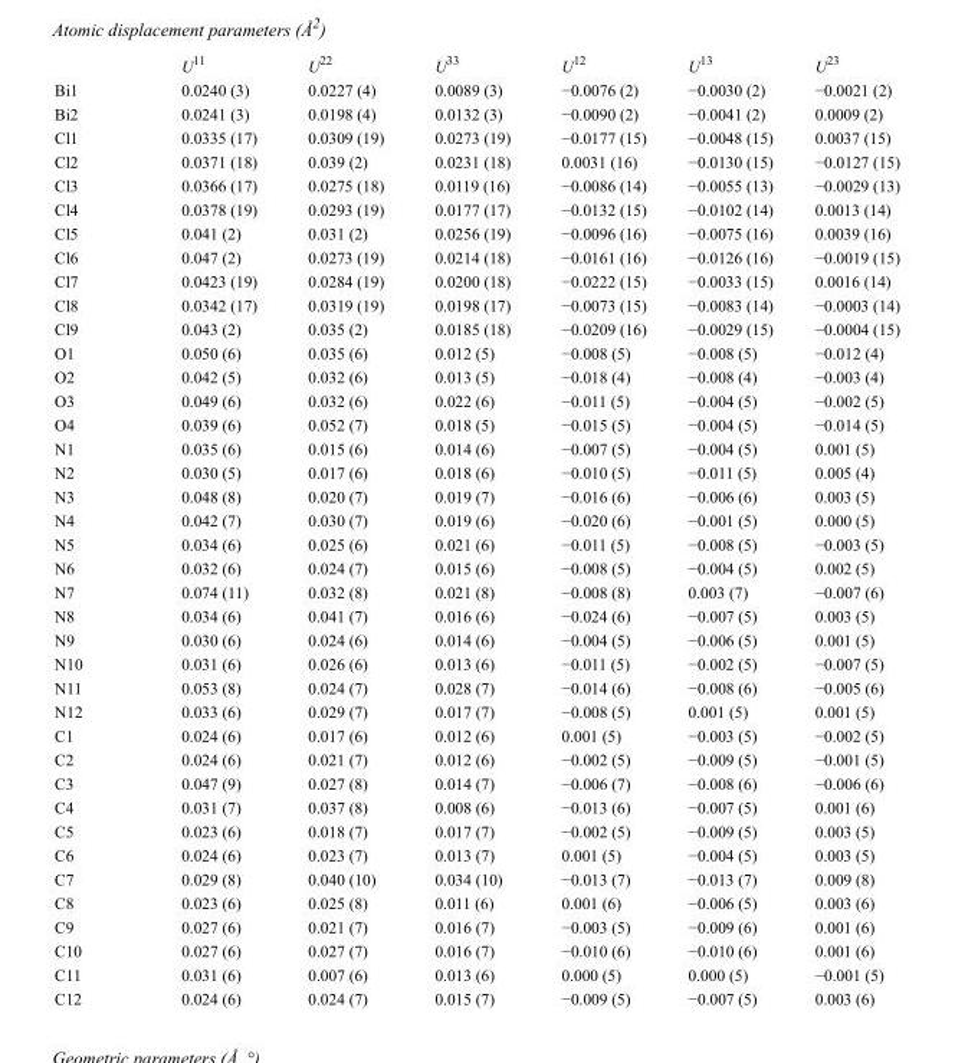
<table><thead><tr><td></td><td>U<sup>11</sup></td><td>U<sup>22</sup></td><td>U<sup>33</sup></td><td>U<sup>12</sup></td><td>U<sup>13</sup></td><td>U<sup>23</sup></td></tr></thead><tbody><tr><td>Bi1</td><td>0.0240 (3)</td><td>0.0227 (4)</td><td>0.0089 (3)</td><td>−0.0076 (2)</td><td>−0.0030 (2)</td><td>−0.0021 (2)</td></tr><tr><td>Bi2</td><td>0.0241 (3)</td><td>0.0198 (4)</td><td>0.0132 (3)</td><td>−0.0090 (2)</td><td>−0.0041 (2)</td><td>0.0009 (2)</td></tr><tr><td>Cl1</td><td>0.0335 (17)</td><td>0.0309 (19)</td><td>0.0273 (19)</td><td>−0.0177 (15)</td><td>−0.0048 (15)</td><td>0.0037 (15)</td></tr><tr><td>Cl2</td><td>0.0371 (18)</td><td>0.039 (2)</td><td>0.0231 (18)</td><td>0.0031 (16)</td><td>−0.0130 (15)</td><td>−0.0127 (15)</td></tr><tr><td>Cl3</td><td>0.0366 (17)</td><td>0.0275 (18)</td><td>0.0119 (16)</td><td>−0.0086 (14)</td><td>−0.0055 (13)</td><td>−0.0029 (13)</td></tr><tr><td>Cl4</td><td>0.0378 (19)</td><td>0.0293 (19)</td><td>0.0177 (17)</td><td>−0.0132 (15)</td><td>−0.0102 (14)</td><td>0.0013 (14)</td></tr><tr><td>Cl5</td><td>0.041 (2)</td><td>0.031 (2)</td><td>0.0256 (19)</td><td>−0.0096 (16)</td><td>−0.0075 (16)</td><td>0.0039 (16)</td></tr><tr><td>Cl6</td><td>0.047 (2)</td><td>0.0273 (19)</td><td>0.0214 (18)</td><td>−0.0161 (16)</td><td>−0.0126 (16)</td><td>−0.0019 (15)</td></tr><tr><td>Cl7</td><td>0.0423 (19)</td><td>0.0284 (19)</td><td>0.0200 (18)</td><td>−0.0222 (15)</td><td>−0.0033 (15)</td><td>0.0016 (14)</td></tr><tr><td>Cl8</td><td>0.0342 (17)</td><td>0.0319 (19)</td><td>0.0198 (17)</td><td>−0.0073 (15)</td><td>−0.0083 (14)</td><td>−0.0003 (14)</td></tr><tr><td>Cl9</td><td>0.043 (2)</td><td>0.035 (2)</td><td>0.0185 (18)</td><td>−0.0209 (16)</td><td>−0.0029 (15)</td><td>−0.0004 (15)</td></tr><tr><td>O1</td><td>0.050 (6)</td><td>0.035 (6)</td><td>0.012 (5)</td><td>−0.008 (5)</td><td>−0.008 (5)</td><td>−0.012 (4)</td></tr><tr><td>O2</td><td>0.042 (5)</td><td>0.032 (6)</td><td>0.013 (5)</td><td>−0.018 (4)</td><td>−0.008 (4)</td><td>−0.003 (4)</td></tr><tr><td>O3</td><td>0.049 (6)</td><td>0.032 (6)</td><td>0.022 (6)</td><td>−0.011 (5)</td><td>−0.004 (5)</td><td>−0.002 (5)</td></tr><tr><td>O4</td><td>0.039 (6)</td><td>0.052 (7)</td><td>0.018 (5)</td><td>−0.015 (5)</td><td>−0.004 (5)</td><td>−0.014 (5)</td></tr><tr><td>N1</td><td>0.035 (6)</td><td>0.015 (6)</td><td>0.014 (6)</td><td>−0.007 (5)</td><td>−0.004 (5)</td><td>0.001 (5)</td></tr><tr><td>N2</td><td>0.030 (5)</td><td>0.017 (6)</td><td>0.018 (6)</td><td>−0.010 (5)</td><td>−0.011 (5)</td><td>0.005 (4)</td></tr><tr><td>N3</td><td>0.048 (8)</td><td>0.020 (7)</td><td>0.019 (7)</td><td>−0.016 (6)</td><td>−0.006 (6)</td><td>0.003 (5)</td></tr><tr><td>N4</td><td>0.042 (7)</td><td>0.030 (7)</td><td>0.019 (6)</td><td>−0.020 (6)</td><td>−0.001 (5)</td><td>0.000 (5)</td></tr><tr><td>N5</td><td>0.034 (6)</td><td>0.025 (6)</td><td>0.021 (6)</td><td>−0.011 (5)</td><td>−0.008 (5)</td><td>−0.003 (5)</td></tr><tr><td>N6</td><td>0.032 (6)</td><td>0.024 (7)</td><td>0.015 (6)</td><td>−0.008 (5)</td><td>−0.004 (5)</td><td>0.002 (5)</td></tr><tr><td>N7</td><td>0.074 (11)</td><td>0.032 (8)</td><td>0.021 (8)</td><td>−0.008 (8)</td><td>0.003 (7)</td><td>−0.007 (6)</td></tr><tr><td>N8</td><td>0.034 (6)</td><td>0.041 (7)</td><td>0.016 (6)</td><td>−0.024 (6)</td><td>−0.007 (5)</td><td>0.003 (5)</td></tr><tr><td>N9</td><td>0.030 (6)</td><td>0.024 (6)</td><td>0.014 (6)</td><td>−0.004 (5)</td><td>−0.006 (5)</td><td>0.001 (5)</td></tr><tr><td>N10</td><td>0.031 (6)</td><td>0.026 (6)</td><td>0.013 (6)</td><td>−0.011 (5)</td><td>−0.002 (5)</td><td>−0.007 (5)</td></tr><tr><td>N11</td><td>0.053 (8)</td><td>0.024 (7)</td><td>0.028 (7)</td><td>−0.014 (6)</td><td>−0.008 (6)</td><td>−0.005 (6)</td></tr><tr><td>N12</td><td>0.033 (6)</td><td>0.029 (7)</td><td>0.017 (7)</td><td>−0.008 (5)</td><td>0.001 (5)</td><td>0.001 (5)</td></tr><tr><td>C1</td><td>0.024 (6)</td><td>0.017 (6)</td><td>0.012 (6)</td><td>0.001 (5)</td><td>−0.003 (5)</td><td>−0.002 (5)</td></tr><tr><td>C2</td><td>0.024 (6)</td><td>0.021 (7)</td><td>0.012 (6)</td><td>−0.002 (5)</td><td>−0.009 (5)</td><td>−0.001 (5)</td></tr><tr><td>C3</td><td>0.047 (9)</td><td>0.027 (8)</td><td>0.014 (7)</td><td>−0.006 (7)</td><td>−0.008 (6)</td><td>−0.006 (6)</td></tr><tr><td>C4</td><td>0.031 (7)</td><td>0.037 (8)</td><td>0.008 (6)</td><td>−0.013 (6)</td><td>−0.007 (5)</td><td>0.001 (6)</td></tr><tr><td>C5</td><td>0.023 (6)</td><td>0.018 (7)</td><td>0.017 (7)</td><td>−0.002 (5)</td><td>−0.009 (5)</td><td>0.003 (5)</td></tr><tr><td>C6</td><td>0.024 (6)</td><td>0.023 (7)</td><td>0.013 (7)</td><td>0.001 (5)</td><td>−0.004 (5)</td><td>0.003 (5)</td></tr><tr><td>C7</td><td>0.029 (8)</td><td>0.040 (10)</td><td>0.034 (10)</td><td>−0.013 (7)</td><td>−0.013 (7)</td><td>0.009 (8)</td></tr><tr><td>C8</td><td>0.023 (6)</td><td>0.025 (8)</td><td>0.011 (6)</td><td>0.001 (6)</td><td>−0.006 (5)</td><td>0.003 (6)</td></tr><tr><td>C9</td><td>0.027 (6)</td><td>0.021 (7)</td><td>0.016 (7)</td><td>−0.003 (5)</td><td>−0.009 (6)</td><td>0.001 (6)</td></tr><tr><td>C10</td><td>0.027 (6)</td><td>0.027 (7)</td><td>0.016 (7)</td><td>−0.010 (6)</td><td>−0.010 (6)</td><td>0.001 (6)</td></tr><tr><td>C11</td><td>0.031 (6)</td><td>0.007 (6)</td><td>0.013 (6)</td><td>0.000 (5)</td><td>0.000 (5)</td><td>−0.001 (5)</td></tr><tr><td>C12</td><td>0.024 (6)</td><td>0.024 (7)</td><td>0.015 (7)</td><td>−0.009 (5)</td><td>−0.007 (5)</td><td>0.003 (6)</td></tr></tbody></table>